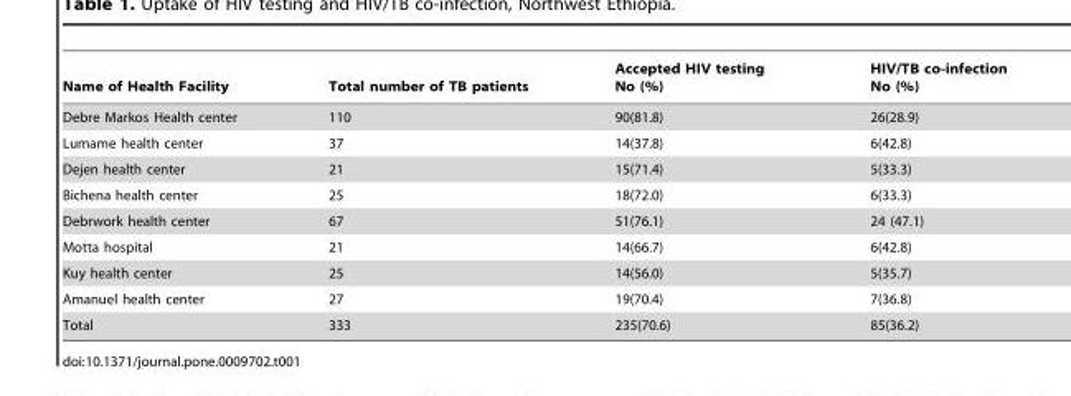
<table><thead><tr><td>Name of Health Facility</td><td>Total number of TB patients</td><td>Accepted HIV testing No (%)</td><td>HIV/TB co-infection No (%)</td></tr></thead><tbody><tr><td>Debre Markos Health center</td><td>110</td><td>90(81.8)</td><td>26(28.9)</td></tr><tr><td>Lumame health center</td><td>37</td><td>14(37.8)</td><td>6(42.8)</td></tr><tr><td>Dejen health center</td><td>21</td><td>15(71.4)</td><td>5(33.3)</td></tr><tr><td>Bichena health center</td><td>25</td><td>18(72.0)</td><td>6(33.3)</td></tr><tr><td>Debrwork health center</td><td>67</td><td>51(76.1)</td><td>24 (47.1)</td></tr><tr><td>Motta hospital</td><td>21</td><td>14(66.7)</td><td>6(42.8)</td></tr><tr><td>Kuy health center</td><td>25</td><td>14(56.0)</td><td>5(35.7)</td></tr><tr><td>Amanuel health center</td><td>27</td><td>19(70.4)</td><td>7(36.8)</td></tr><tr><td>Total</td><td>333</td><td>235(70.6)</td><td>85(36.2)</td></tr></tbody></table>